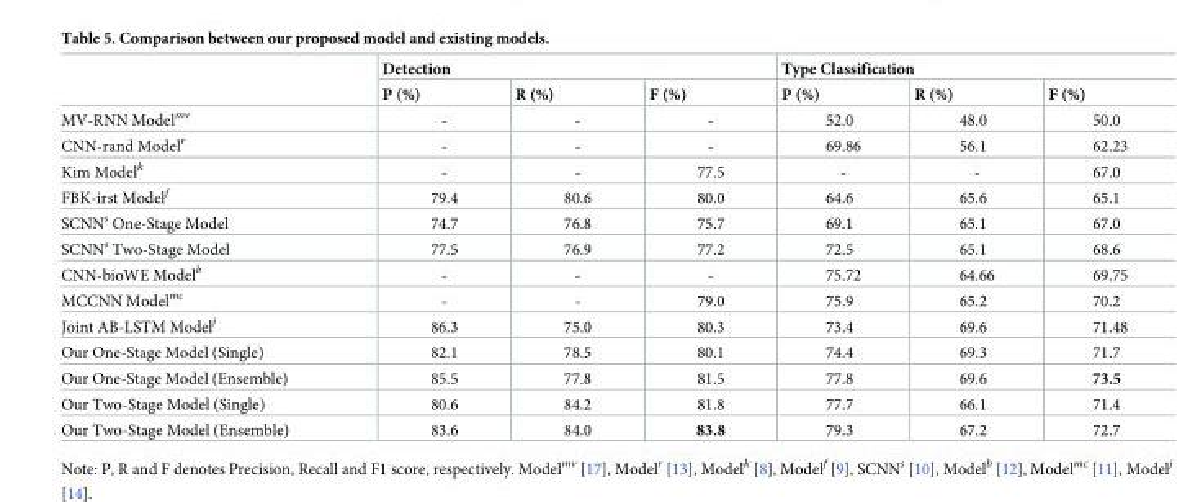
<table><thead><tr><td rowspan="2"></td><td colspan="3">Detection</td><td colspan="3">Type Classification</td></tr><tr><td>P (%)</td><td>R (%)</td><td>F (%)</td><td>P (%)</td><td>R (%)</td><td>F (%)</td></tr></thead><tbody><tr><td>MV-RNN Model<sup>mv</sup></td><td>-</td><td>-</td><td>-</td><td>52.0</td><td>48.0</td><td>50.0</td></tr><tr><td>CNN-rand Model<sup>r</sup></td><td>-</td><td>-</td><td>-</td><td>69.86</td><td>56.1</td><td>62.23</td></tr><tr><td>Kim Model<sup>k</sup></td><td>-</td><td>-</td><td>77.5</td><td>-</td><td>-</td><td>67.0</td></tr><tr><td>FBK-irst Model<sup>f</sup></td><td>79.4</td><td>80.6</td><td>80.0</td><td>64.6</td><td>65.6</td><td>65.1</td></tr><tr><td>SCNN<sup>s</sup> One-Stage Model</td><td>74.7</td><td>76.8</td><td>75.7</td><td>69.1</td><td>65.1</td><td>67.0</td></tr><tr><td>SCNN<sup>s</sup> Two-Stage Model</td><td>77.5</td><td>76.9</td><td>77.2</td><td>72.5</td><td>65.1</td><td>68.6</td></tr><tr><td>CNN-bioWE Model<sup>b</sup></td><td>-</td><td>-</td><td>-</td><td>75.72</td><td>64.66</td><td>69.75</td></tr><tr><td>MCCNN Model<sup>mc</sup></td><td>-</td><td>-</td><td>79.0</td><td>75.9</td><td>65.2</td><td>70.2</td></tr><tr><td>Joint AB-LSTM Model<sup>j</sup></td><td>86.3</td><td>75.0</td><td>80.3</td><td>73.4</td><td>69.6</td><td>71.48</td></tr><tr><td>Our One-Stage Model (Single)</td><td>82.1</td><td>78.5</td><td>80.1</td><td>74.4</td><td>69.3</td><td>71.7</td></tr><tr><td>Our One-Stage Model (Ensemble)</td><td>85.5</td><td>77.8</td><td>81.5</td><td>77.8</td><td>69.6</td><td>73.5</td></tr><tr><td>Our Two-Stage Model (Single)</td><td>80.6</td><td>84.2</td><td>81.8</td><td>77.7</td><td>66.1</td><td>71.4</td></tr><tr><td>Our Two-Stage Model (Ensemble)</td><td>83.6</td><td>84.0</td><td>83.8</td><td>79.3</td><td>67.2</td><td>72.7</td></tr></tbody></table>